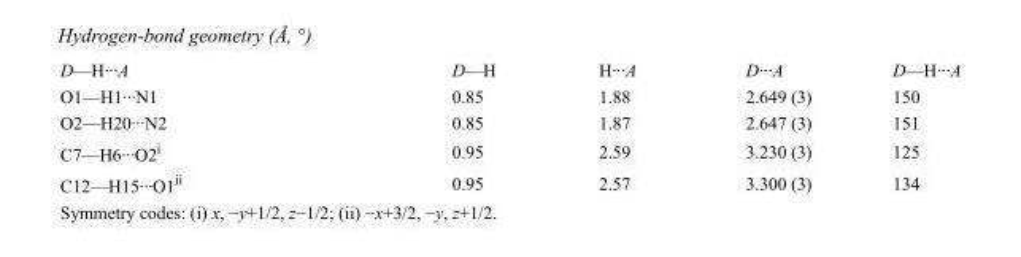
<table><tbody><tr><td>D—H···A</td><td>D—H</td><td>H···A</td><td>D···A</td><td>D—H···A</td></tr><tr><td>O1—H1···N1</td><td>0.85</td><td>1.88</td><td>2.649 (3)</td><td>150</td></tr><tr><td>O2—H20···N2</td><td>0.85</td><td>1.87</td><td>2.647 (3)</td><td>151</td></tr><tr><td>C7—H6···O2<sup>i</sup></td><td>0.95</td><td>2.59</td><td>3.230 (3)</td><td>125</td></tr><tr><td>C12—H15···O1<sup>ii</sup></td><td>0.95</td><td>2.57</td><td>3.300 (3)</td><td>134</td></tr></tbody></table>